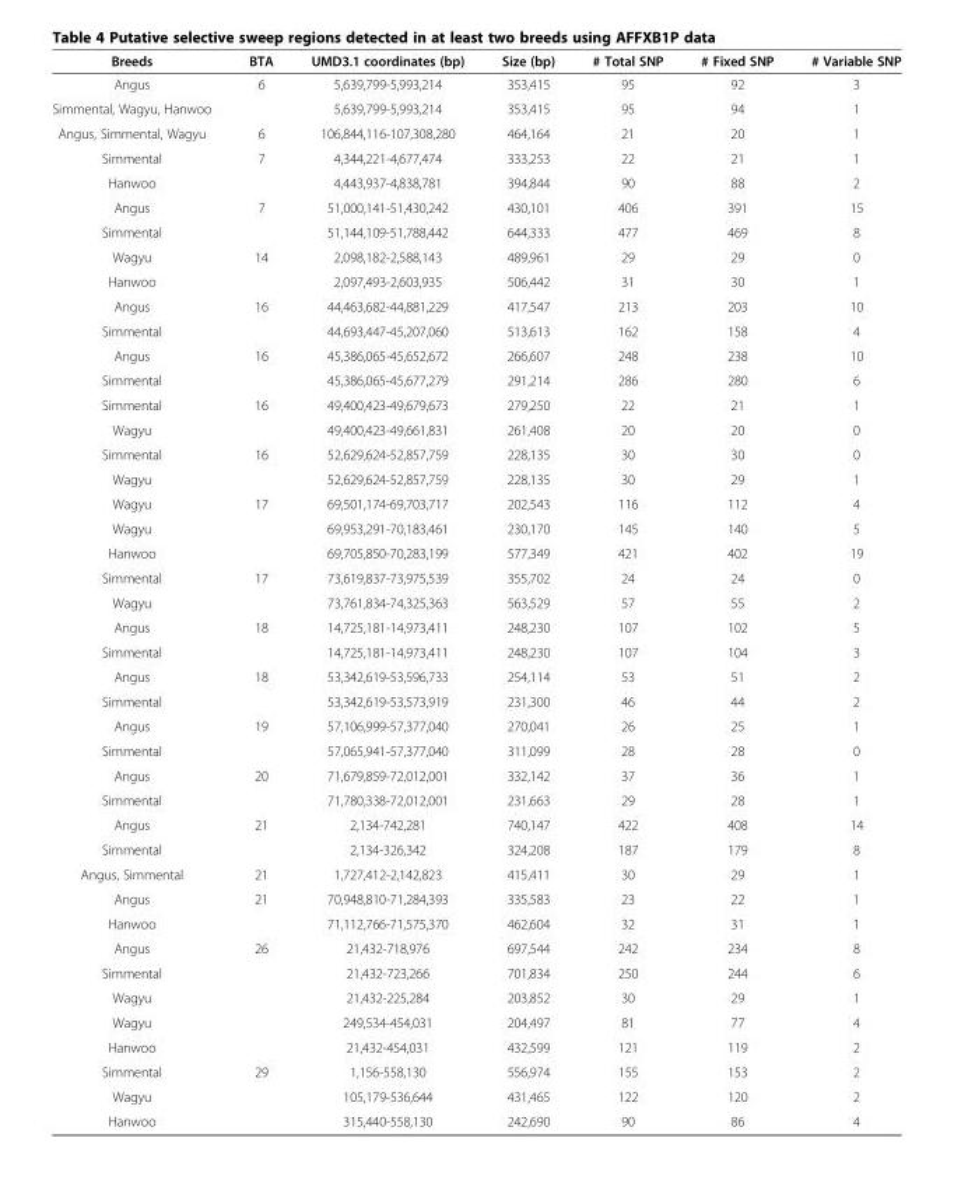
<table><thead><tr><td>Breeds</td><td>BTA</td><td>UMD3.1 coordinates (bp)</td><td>Size (bp)</td><td># Total SNP</td><td># Fixed SNP</td><td># Variable SNP</td></tr></thead><tbody><tr><td>Angus</td><td>6</td><td>5,639,799-5,993,214</td><td>353,415</td><td>95</td><td>92</td><td>3</td></tr><tr><td>Simmental, Wagyu, Hanwoo</td><td></td><td>5,639,799-5,993,214</td><td>353,415</td><td>95</td><td>94</td><td>1</td></tr><tr><td>Angus, Simmental, Wagyu</td><td>6</td><td>106,844,116-107,308,280</td><td>464,164</td><td>21</td><td>20</td><td>1</td></tr><tr><td>Simmental</td><td>7</td><td>4,344,221-4,677,474</td><td>333,253</td><td>22</td><td>21</td><td>1</td></tr><tr><td>Hanwoo</td><td></td><td>4,443,937-4,838,781</td><td>394,844</td><td>90</td><td>88</td><td>2</td></tr><tr><td>Angus</td><td>7</td><td>51,000,141-51,430,242</td><td>430,101</td><td>406</td><td>391</td><td>15</td></tr><tr><td>Simmental</td><td></td><td>51,144,109-51,788,442</td><td>644,333</td><td>477</td><td>469</td><td>8</td></tr><tr><td>Wagyu</td><td>14</td><td>2,098,182-2,588,143</td><td>489,961</td><td>29</td><td>29</td><td>0</td></tr><tr><td>Hanwoo</td><td></td><td>2,097,493-2,603,935</td><td>506,442</td><td>31</td><td>30</td><td>1</td></tr><tr><td>Angus</td><td>16</td><td>44,463,682-44,881,229</td><td>417,547</td><td>213</td><td>203</td><td>10</td></tr><tr><td>Simmental</td><td></td><td>44,693,447-45,207,060</td><td>513,613</td><td>162</td><td>158</td><td>4</td></tr><tr><td>Angus</td><td>16</td><td>45,386,065-45,652,672</td><td>266,607</td><td>248</td><td>238</td><td>10</td></tr><tr><td>Simmental</td><td></td><td>45,386,065-45,677,279</td><td>291,214</td><td>286</td><td>280</td><td>6</td></tr><tr><td>Simmental</td><td>16</td><td>49,400,423-49,679,673</td><td>279,250</td><td>22</td><td>21</td><td>1</td></tr><tr><td>Wagyu</td><td></td><td>49,400,423-49,661,831</td><td>261,408</td><td>20</td><td>20</td><td>0</td></tr><tr><td>Simmental</td><td>16</td><td>52,629,624-52,857,759</td><td>228,135</td><td>30</td><td>30</td><td>0</td></tr><tr><td>Wagyu</td><td></td><td>52,629,624-52,857,759</td><td>228,135</td><td>30</td><td>29</td><td>1</td></tr><tr><td>Wagyu</td><td>17</td><td>69,501,174-69,703,717</td><td>202,543</td><td>116</td><td>112</td><td>4</td></tr><tr><td>Wagyu</td><td></td><td>69,953,291-70,183,461</td><td>230,170</td><td>145</td><td>140</td><td>5</td></tr><tr><td>Hanwoo</td><td></td><td>69,705,850-70,283,199</td><td>577,349</td><td>421</td><td>402</td><td>19</td></tr><tr><td>Simmental</td><td>17</td><td>73,619,837-73,975,539</td><td>355,702</td><td>24</td><td>24</td><td>0</td></tr><tr><td>Wagyu</td><td></td><td>73,761,834-74,325,363</td><td>563,529</td><td>57</td><td>55</td><td>2</td></tr><tr><td>Angus</td><td>18</td><td>14,725,181-14,973,411</td><td>248,230</td><td>107</td><td>102</td><td>5</td></tr><tr><td>Simmental</td><td></td><td>14,725,181-14,973,411</td><td>248,230</td><td>107</td><td>104</td><td>3</td></tr><tr><td>Angus</td><td>18</td><td>53,342,619-53,596,733</td><td>254,114</td><td>53</td><td>51</td><td>2</td></tr><tr><td>Simmental</td><td></td><td>53,342,619-53,573,919</td><td>231,300</td><td>46</td><td>44</td><td>2</td></tr><tr><td>Angus</td><td>19</td><td>57,106,999-57,377,040</td><td>270,041</td><td>26</td><td>25</td><td>1</td></tr><tr><td>Simmental</td><td></td><td>57,065,941-57,377,040</td><td>311,099</td><td>28</td><td>28</td><td>0</td></tr><tr><td>Angus</td><td>20</td><td>71,679,859-72,012,001</td><td>332,142</td><td>37</td><td>36</td><td>1</td></tr><tr><td>Simmental</td><td></td><td>71,780,338-72,012,001</td><td>231,663</td><td>29</td><td>28</td><td>1</td></tr><tr><td>Angus</td><td>21</td><td>2,134-742,281</td><td>740,147</td><td>422</td><td>408</td><td>14</td></tr><tr><td>Simmental</td><td></td><td>2,134-326,342</td><td>324,208</td><td>187</td><td>179</td><td>8</td></tr><tr><td>Angus, Simmental</td><td>21</td><td>1,727,412-2,142,823</td><td>415,411</td><td>30</td><td>29</td><td>1</td></tr><tr><td>Angus</td><td>21</td><td>70,948,810-71,284,393</td><td>335,583</td><td>23</td><td>22</td><td>1</td></tr><tr><td>Hanwoo</td><td></td><td>71,112,766-71,575,370</td><td>462,604</td><td>32</td><td>31</td><td>1</td></tr><tr><td>Angus</td><td>26</td><td>21,432-718,976</td><td>697,544</td><td>242</td><td>234</td><td>8</td></tr><tr><td>Simmental</td><td></td><td>21,432-723,266</td><td>701,834</td><td>250</td><td>244</td><td>6</td></tr><tr><td>Wagyu</td><td></td><td>21,432-225,284</td><td>203,852</td><td>30</td><td>29</td><td>1</td></tr><tr><td>Wagyu</td><td></td><td>249,534-454,031</td><td>204,497</td><td>81</td><td>77</td><td>4</td></tr><tr><td>Hanwoo</td><td></td><td>21,432-454,031</td><td>432,599</td><td>121</td><td>119</td><td>2</td></tr><tr><td>Simmental</td><td>29</td><td>1,156-558,130</td><td>556,974</td><td>155</td><td>153</td><td>2</td></tr><tr><td>Wagyu</td><td></td><td>105,179-536,644</td><td>431,465</td><td>122</td><td>120</td><td>2</td></tr><tr><td>Hanwoo</td><td></td><td>315,440-558,130</td><td>242,690</td><td>90</td><td>86</td><td>4</td></tr></tbody></table>